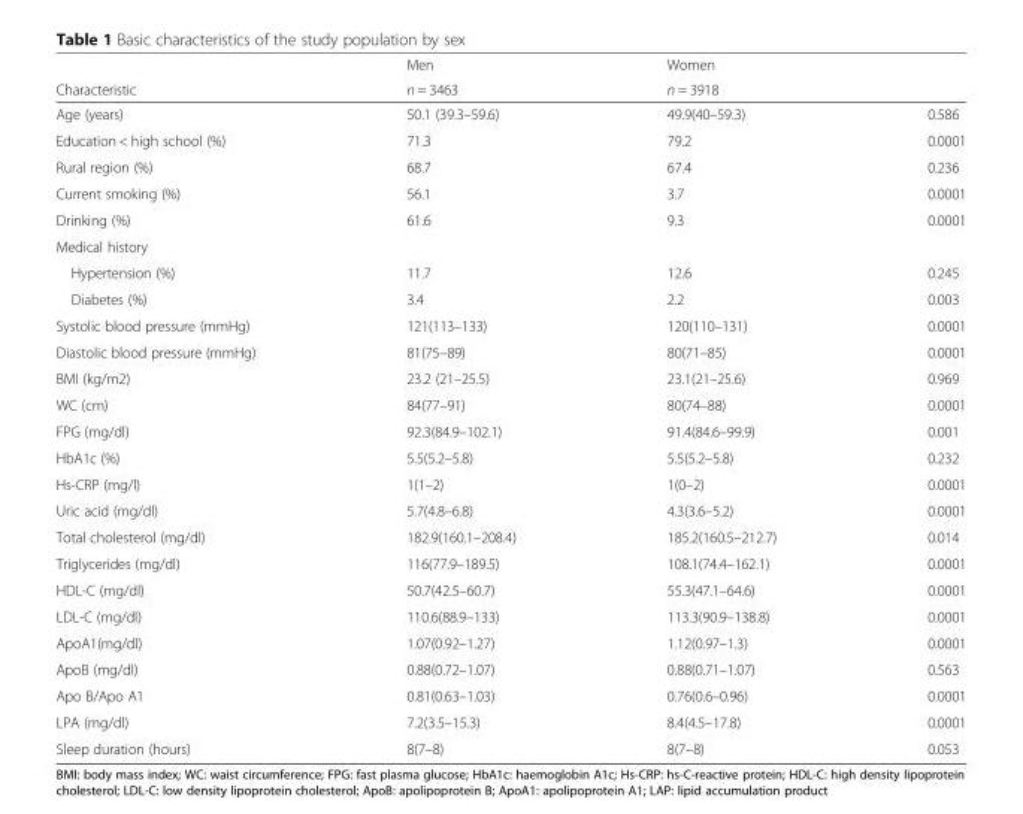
<table><thead><tr><td rowspan="2">Characteristic</td><td rowspan="2">Men n = 3463</td><td rowspan="2">Women n = 3918</td><td rowspan="2"></td></tr><tr></tr></thead><tbody><tr><td>Age (years)</td><td>50.1 (39.3–59.6)</td><td>49.9(40–59.3)</td><td>0.586</td></tr><tr><td>Education &lt; high school (%)</td><td>71.3</td><td>79.2</td><td>0.0001</td></tr><tr><td>Rural region (%)</td><td>68.7</td><td>67.4</td><td>0.236</td></tr><tr><td>Current smoking (%)</td><td>56.1</td><td>3.7</td><td>0.0001</td></tr><tr><td>Drinking (%)</td><td>61.6</td><td>9.3</td><td>0.0001</td></tr><tr><td colspan="4">Medical history</td></tr><tr><td>Hypertension (%)</td><td>11.7</td><td>12.6</td><td>0.245</td></tr><tr><td>Diabetes (%)</td><td>3.4</td><td>2.2</td><td>0.003</td></tr><tr><td>Systolic blood pressure (mmHg)</td><td>121(113–133)</td><td>120(110–131)</td><td>0.0001</td></tr><tr><td>Diastolic blood pressure (mmHg)</td><td>81(75–89)</td><td>80(71–85)</td><td>0.0001</td></tr><tr><td>BMI (kg/m2)</td><td>23.2 (21–25.5)</td><td>23.1(21–25.6)</td><td>0.969</td></tr><tr><td>WC (cm)</td><td>84(77–91)</td><td>80(74–88)</td><td>0.0001</td></tr><tr><td>FPG (mg/dl)</td><td>92.3(84.9–102.1)</td><td>91.4(84.6–99.9)</td><td>0.001</td></tr><tr><td>HbA1c (%)</td><td>5.5(5.2–5.8)</td><td>5.5(5.2–5.8)</td><td>0.232</td></tr><tr><td>Hs-CRP (mg/l)</td><td>1(1–2)</td><td>1(0–2)</td><td>0.0001</td></tr><tr><td>Uric acid (mg/dl)</td><td>5.7(4.8–6.8)</td><td>4.3(3.6–5.2)</td><td>0.0001</td></tr><tr><td>Total cholesterol (mg/dl)</td><td>182.9(160.1–208.4)</td><td>185.2(160.5–212.7)</td><td>0.014</td></tr><tr><td>Triglycerides (mg/dl)</td><td>116(77.9–189.5)</td><td>108.1(74.4–162.1)</td><td>0.0001</td></tr><tr><td>HDL-C (mg/dl)</td><td>50.7(42.5–60.7)</td><td>55.3(47.1–64.6)</td><td>0.0001</td></tr><tr><td>LDL-C (mg/dl)</td><td>110.6(88.9–133)</td><td>113.3(90.9–138.8)</td><td>0.0001</td></tr><tr><td>ApoA1(mg/dl)</td><td>1.07(0.92–1.27)</td><td>1.12(0.97–1.3)</td><td>0.0001</td></tr><tr><td>ApoB (mg/dl)</td><td>0.88(0.72–1.07)</td><td>0.88(0.71–1.07)</td><td>0.563</td></tr><tr><td>Apo B/Apo A1</td><td>0.81(0.63–1.03)</td><td>0.76(0.6–0.96)</td><td>0.0001</td></tr><tr><td>LPA (mg/dl)</td><td>7.2(3.5–15.3)</td><td>8.4(4.5–17.8)</td><td>0.0001</td></tr><tr><td>Sleep duration (hours)</td><td>8(7–8)</td><td>8(7–8)</td><td>0.053</td></tr></tbody></table>